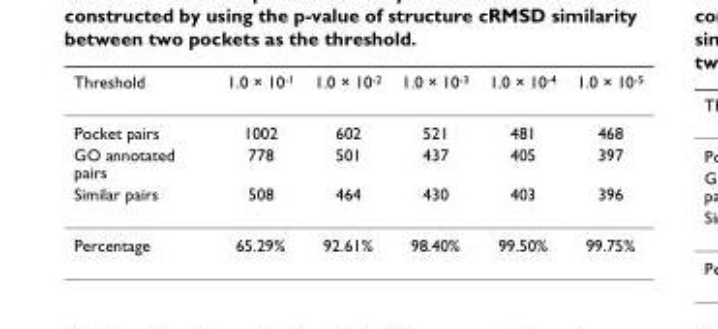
<table><thead><tr><td>Threshold</td><td>1.0 × 10<sup>-1</sup></td><td>1.0 × 10<sup>-2</sup></td><td>1.0 × 10<sup>-3</sup></td><td>1.0 × 10<sup>-4</sup></td><td>1.0 × 10<sup>-5</sup></td></tr></thead><tbody><tr><td>Pocket pairs</td><td>1002</td><td>602</td><td>521</td><td>481</td><td>468</td></tr><tr><td>GO annotated pairs</td><td>778</td><td>501</td><td>437</td><td>405</td><td>397</td></tr><tr><td>Similar pairs</td><td>508</td><td>464</td><td>430</td><td>403</td><td>396</td></tr><tr><td>Percentage</td><td>65.29%</td><td>92.61%</td><td>98.40%</td><td>99.50%</td><td>99.75%</td></tr></tbody></table>